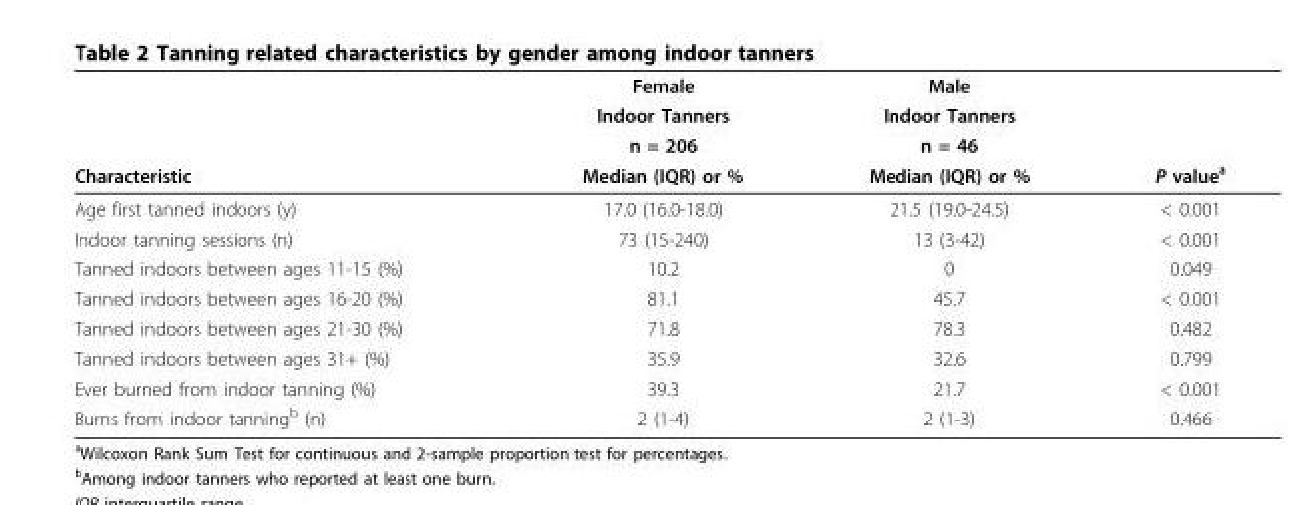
<table><thead><tr><td rowspan="4">Characteristic</td><td rowspan="4">Female Indoor Tanners n = 206 Median (IQR) or %</td><td rowspan="4">Male Indoor Tanners n = 46 Median (IQR) or %</td><td rowspan="4">P value<sup>a</sup></td></tr><tr></tr><tr></tr><tr></tr></thead><tbody><tr><td>Age first tanned indoors (y)</td><td>17.0 (16.0-18.0)</td><td>21.5 (19.0-24.5)</td><td>&lt; 0.001</td></tr><tr><td>Indoor tanning sessions (n)</td><td>73 (15-240)</td><td>13 (3-42)</td><td>&lt; 0.001</td></tr><tr><td>Tanned indoors between ages 11-15 (%)</td><td>10.2</td><td>0</td><td>0.049</td></tr><tr><td>Tanned indoors between ages 16-20 (%)</td><td>81.1</td><td>45.7</td><td>&lt; 0.001</td></tr><tr><td>Tanned indoors between ages 21-30 (%)</td><td>71.8</td><td>78.3</td><td>0.482</td></tr><tr><td>Tanned indoors between ages 31+ (%)</td><td>35.9</td><td>32.6</td><td>0.799</td></tr><tr><td>Ever burned from indoor tanning (%)</td><td>39.3</td><td>21.7</td><td>&lt; 0.001</td></tr><tr><td>Burns from indoor tanning<sup>b</sup> (n)</td><td>2 (1-4)</td><td>2 (1-3)</td><td>0.466</td></tr></tbody></table>